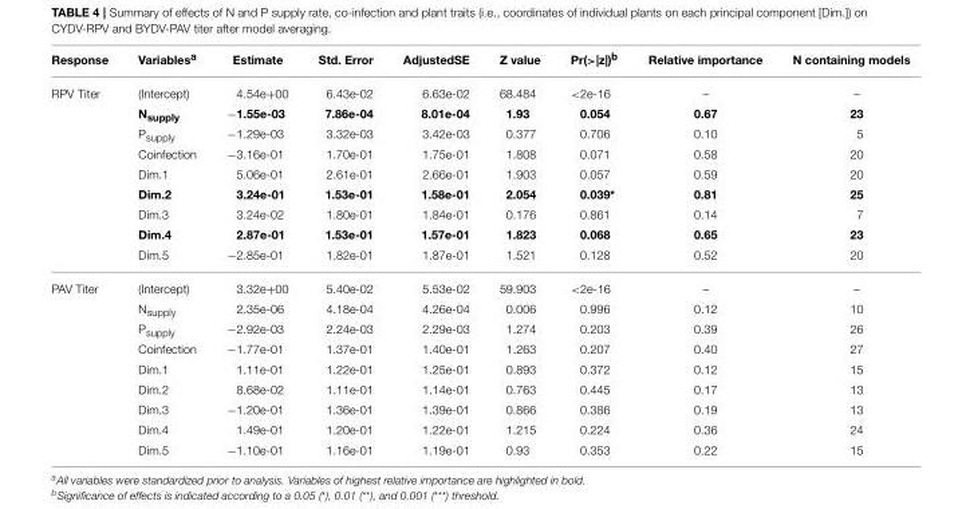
<table><thead><tr><td>Response</td><td>Variables<sup>a</sup></td><td>Estimate</td><td>Std. Error</td><td>AdjustedSE</td><td>Z value</td><td>Pr(&gt;|z|)<sup>b</sup></td><td>Relative importance</td><td>N containing models</td></tr></thead><tbody><tr><td rowspan="9">RPV Titer</td><td>(Intercept)</td><td>4.54e+00</td><td>6.43e-02</td><td>6.63e-02</td><td>68.484</td><td>&lt;2e-16</td><td>–</td><td>–</td></tr><tr><td>N<sub>supply</sub></td><td>−1.55e-03</td><td>7.86e-04</td><td>8.01e-04</td><td>1.93</td><td>0.054</td><td>0.67</td><td>23</td></tr><tr><td>P<sub>supply</sub></td><td>−1.29e-03</td><td>3.32e-03</td><td>3.42e-03</td><td>0.377</td><td>0.706</td><td>0.10</td><td>5</td></tr><tr><td>Coinfection</td><td>−3.16e-01</td><td>1.70e-01</td><td>1.75e-01</td><td>1.808</td><td>0.071</td><td>0.58</td><td>20</td></tr><tr><td>Dim.1</td><td>5.06e-01</td><td>2.61e-01</td><td>2.66e-01</td><td>1.903</td><td>0.057</td><td>0.59</td><td>20</td></tr><tr><td>Dim.2</td><td>3.24e-01</td><td>1.53e-01</td><td>1.58e-01</td><td>2.054</td><td>0.039*</td><td>0.81</td><td>25</td></tr><tr><td>Dim.3</td><td>3.24e-02</td><td>1.80e-01</td><td>1.84e-01</td><td>0.176</td><td>0.861</td><td>0.14</td><td>7</td></tr><tr><td>Dim.4</td><td>2.87e-01</td><td>1.53e-01</td><td>1.57e-01</td><td>1.823</td><td>0.068</td><td>0.65</td><td>23</td></tr><tr><td>Dim.5</td><td>−2.85e-01</td><td>1.82e-01</td><td>1.87e-01</td><td>1.521</td><td>0.128</td><td>0.52</td><td>20</td></tr><tr><td rowspan="9">PAV Titer</td><td>(Intercept)</td><td>3.32e+00</td><td>5.40e-02</td><td>5.53e-02</td><td>59.903</td><td>&lt;2e-16</td><td>–</td><td>–</td></tr><tr><td>N<sub>supply</sub></td><td>2.35e-06</td><td>4.18e-04</td><td>4.26e-04</td><td>0.006</td><td>0.996</td><td>0.12</td><td>10</td></tr><tr><td>P<sub>supply</sub></td><td>−2.92e-03</td><td>2.24e-03</td><td>2.29e-03</td><td>1.274</td><td>0.203</td><td>0.39</td><td>26</td></tr><tr><td>Coinfection</td><td>−1.77e-01</td><td>1.37e-01</td><td>1.40e-01</td><td>1.263</td><td>0.207</td><td>0.40</td><td>27</td></tr><tr><td>Dim.1</td><td>1.11e-01</td><td>1.22e-01</td><td>1.25e-01</td><td>0.893</td><td>0.372</td><td>0.12</td><td>15</td></tr><tr><td>Dim.2</td><td>8.68e-02</td><td>1.11e-01</td><td>1.14e-01</td><td>0.763</td><td>0.445</td><td>0.17</td><td>13</td></tr><tr><td>Dim.3</td><td>−1.20e-01</td><td>1.36e-01</td><td>1.39e-01</td><td>0.866</td><td>0.386</td><td>0.19</td><td>13</td></tr><tr><td>Dim.4</td><td>1.49e-01</td><td>1.20e-01</td><td>1.22e-01</td><td>1.215</td><td>0.224</td><td>0.36</td><td>24</td></tr><tr><td>Dim.5</td><td>−1.10e-01</td><td>1.16e-01</td><td>1.19e-01</td><td>0.93</td><td>0.353</td><td>0.22</td><td>15</td></tr></tbody></table>